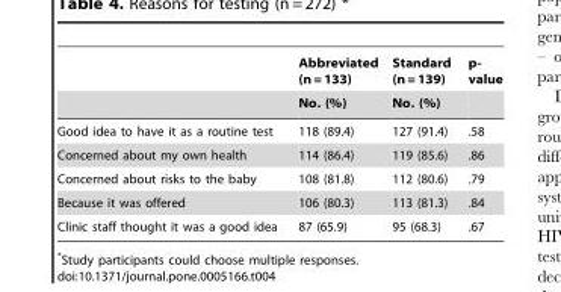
<table><thead><tr><td rowspan="2"></td><td rowspan="2">Abbreviated (n = 133) No. (%)</td><td rowspan="2">Standard (n = 139) No. (%)</td><td rowspan="2">p- value</td></tr><tr></tr></thead><tbody><tr><td>Good idea to have it as a routine test</td><td>118 (89.4)</td><td>127 (91.4)</td><td>.58</td></tr><tr><td>Concerned about my own health</td><td>114 (86.4)</td><td>119 (85.6)</td><td>.86</td></tr><tr><td>Concerned about risks to the baby</td><td>108 (81.8)</td><td>112 (80.6)</td><td>.79</td></tr><tr><td>Because it was offered</td><td>106 (80.3)</td><td>113 (81.3)</td><td>.84</td></tr><tr><td>Clinic staff thought it was a good idea</td><td>87 (65.9)</td><td>95 (68.3)</td><td>.67</td></tr></tbody></table>